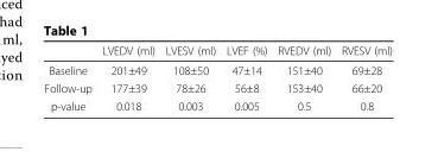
<table><thead><tr><td></td><td>LVEDV (ml)</td><td>LVESV (ml)</td><td>LVEF (%)</td><td>RVEDV (ml)</td><td>RVESV (ml)</td></tr></thead><tbody><tr><td>Baseline</td><td>201±49</td><td>108±50</td><td>47±14</td><td>151±40</td><td>69±28</td></tr><tr><td>Follow-up</td><td>177±39</td><td>78±26</td><td>56±8</td><td>153±40</td><td>66±20</td></tr><tr><td>p-value</td><td>0.018</td><td>0.003</td><td>0.005</td><td>0.5</td><td>0.8</td></tr></tbody></table>